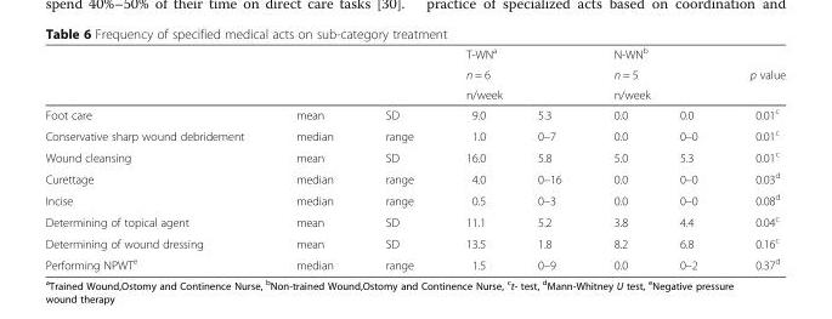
<table><thead><tr><td rowspan="4">Foot care</td><td rowspan="4">mean</td><td rowspan="4">SD</td><td rowspan="3" colspan="2">T-WN<sup>a</sup> n = 6 n/week</td><td rowspan="3" colspan="2">N-WN<sup>b</sup> n = 5 n/week</td><td rowspan="4">p value 0.01<sup>c</sup></td></tr><tr></tr><tr></tr><tr><td>9.0</td><td>5.3</td><td>0.0</td><td>0.0</td></tr></thead><tbody><tr><td>Conservative sharp wound debridement</td><td>median</td><td>range</td><td>1.0</td><td>0–7</td><td>0.0</td><td>0–0</td><td>0.01<sup>c</sup></td></tr><tr><td>Wound cleansing</td><td>mean</td><td>SD</td><td>16.0</td><td>5.8</td><td>5.0</td><td>5.3</td><td>0.01<sup>c</sup></td></tr><tr><td>Curettage</td><td>median</td><td>range</td><td>4.0</td><td>0–16</td><td>0.0</td><td>0–0</td><td>0.03<sup>d</sup></td></tr><tr><td>Incise</td><td>median</td><td>range</td><td>0.5</td><td>0–3</td><td>0.0</td><td>0–0</td><td>0.08<sup>d</sup></td></tr><tr><td>Determining of topical agent</td><td>mean</td><td>SD</td><td>11.1</td><td>5.2</td><td>3.8</td><td>4.4</td><td>0.04<sup>c</sup></td></tr><tr><td>Determining of wound dressing</td><td>mean</td><td>SD</td><td>13.5</td><td>1.8</td><td>8.2</td><td>6.8</td><td>0.16<sup>c</sup></td></tr><tr><td>Performing NPWT<sup>e</sup></td><td>median</td><td>range</td><td>1.5</td><td>0–9</td><td>0.0</td><td>0–2</td><td>0.37<sup>d</sup></td></tr></tbody></table>